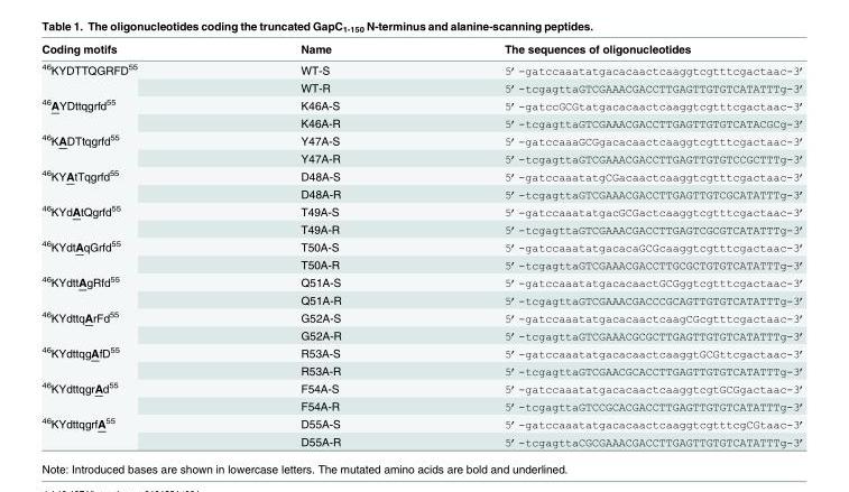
<table><thead><tr><td>Coding motifs</td><td>Name</td><td>The sequences of oligonucleotides</td></tr></thead><tbody><tr><td rowspan="2"><sup>46</sup>KYDTTQGRFD<sup>55</sup></td><td>WT-S</td><td>5’-gatccaaatatgacacaactcaaggtcgtttcgactaac-3’</td></tr><tr><td>WT-R</td><td>5’-tcgagttaGTCGAAACGACCTTGAGTTGTGTCATATTTg-3’</td></tr><tr><td rowspan="2"><sup>46</sup>AYDttqgrfd<sup>55</sup></td><td>K46A-S</td><td>5’-gatccGCGtatgacacaactcaaggtcgtttcgactaac-3’</td></tr><tr><td>K46A-R</td><td>5’-tcgagttaGTCGAAACGACCTTGAGTTGTGTCATACGCg-3’</td></tr><tr><td rowspan="2"><sup>46</sup>KADTtqgrfd<sup>55</sup></td><td>Y47A-S</td><td>5’-gatccaaaGCGgacacaactcaaggtcgtttcgactaac-3’</td></tr><tr><td>Y47A-R</td><td>5’-tcgagttaGTCGAAACGACCTTGAGTTGTGTCCGCTTTg-3’</td></tr><tr><td rowspan="2"><sup>46</sup>KYAtTqgrfd<sup>55</sup></td><td>D48A-S</td><td>5’-gatccaaatatgCGacaactcaaggtcgtttcgactaac-3’</td></tr><tr><td>D48A-R</td><td>5’-tcgagttaGTCGAAACGACCTTGAGTTGTCGCATATTTg-3’</td></tr><tr><td rowspan="2"><sup>46</sup>KYdAtQgrfd<sup>55</sup></td><td>T49A-S</td><td>5’-gatccaaatatgacGCGactcaaggtcgtttcgactaac-3’</td></tr><tr><td>T49A-R</td><td>5’-tcgagttaGTCGAAACGACCTTGAGTCGCGTCATATTTg-3’</td></tr><tr><td rowspan="2"><sup>46</sup>KYdtAqGrfd<sup>55</sup></td><td>T50A-S</td><td>5’-gatccaaatatgacacaGCGcaaggtcgtttcgactaac-3’</td></tr><tr><td>T50A-R</td><td>5’-tcgagttaGTCGAAACGACCTTGCGCTGTGTCATATTTg-3’</td></tr><tr><td rowspan="2"><sup>46</sup>KYdttAgRfd<sup>55</sup></td><td>Q51A-S</td><td>5’-gatccaaatatgacacaactGCGggtcgtttcgactaac-3’</td></tr><tr><td>Q51A-R</td><td>5’-tcgagttaGTCGAAACGACCCGCAGTTGTGTCATATTTg-3’</td></tr><tr><td rowspan="2"><sup>46</sup>KYdttqArFd<sup>55</sup></td><td>G52A-S</td><td>5’-gatccaaatatgacacaactcaagCGcgtttcgactaac-3’</td></tr><tr><td>G52A-R</td><td>5’-tcgagttaGTCGAAACGCGCTTGAGTTGTGTCATATTTg-3’</td></tr><tr><td rowspan="2"><sup>46</sup>KYdttqgAfD<sup>55</sup></td><td>R53A-S</td><td>5’-gatccaaatatgacacaactcaaggtGCGttcgactaac-3’</td></tr><tr><td>R53A-R</td><td>5’-tcgagttaGTCGAACGCACCTTGAGTTGTGTCATATTTg-3’</td></tr><tr><td rowspan="2"><sup>46</sup>KYdttqgrAd<sup>55</sup></td><td>F54A-S</td><td>5’-gatccaaatatgacacaactcaaggtcgtGCGgactaac-3’</td></tr><tr><td>F54A-R</td><td>5’-tcgagttaGTCCGCACGACCTTGAGTTGTGTCATATTTg-3’</td></tr><tr><td rowspan="2"><sup>46</sup>KYdttqgrfA<sup>55</sup></td><td>D55A-S</td><td>5’-gatccaaatatgacacaactcaaggtcgtttcgCGtaac-3’</td></tr><tr><td>D55A-R</td><td>5’-tcgagttaCGCGAAACGACCTTGAGTTGTGTCATATTTg-3’</td></tr></tbody></table>